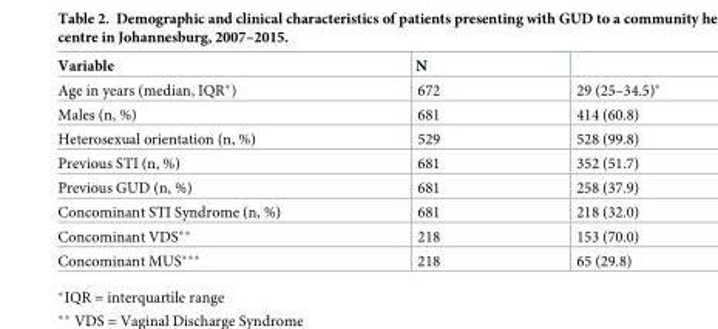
<table><thead><tr><td>Variable</td><td>N</td><td></td></tr></thead><tbody><tr><td>Age in years (median, IQR*)</td><td>672</td><td>29 (25–34.5)*</td></tr><tr><td>Males (n, %)</td><td>681</td><td>414 (60.8)</td></tr><tr><td>Heterosexual orientation (n, %)</td><td>529</td><td>528 (99.8)</td></tr><tr><td>Previous STI (n, %)</td><td>681</td><td>352 (51.7)</td></tr><tr><td>Previous GUD (n, %)</td><td>681</td><td>258 (37.9)</td></tr><tr><td>Concominant STI Syndrome (n, %)</td><td>681</td><td>218 (32.0)</td></tr><tr><td>Concominant VDS**</td><td>218</td><td>153 (70.0)</td></tr><tr><td>Concominant MUS***</td><td>218</td><td>65 (29.8)</td></tr></tbody></table>